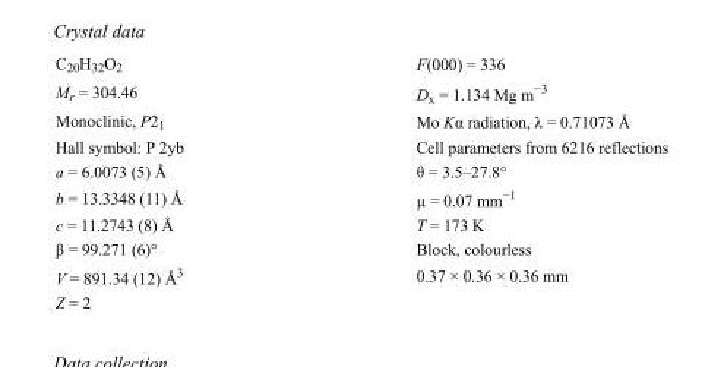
<table><tbody><tr><td>C<sub>20</sub>H<sub>32</sub>O<sub>2</sub></td><td>F(000) = 336</td></tr><tr><td>M<sub>r</sub> = 304.46</td><td>D<sub>x</sub> = 1.134 Mg m<sup>−3</sup></td></tr><tr><td>Monoclinic, P2<sub>1</sub></td><td>Mo Kα radiation, λ = 0.71073 Å</td></tr><tr><td>Hall symbol: P 2yb</td><td>Cell parameters from 6216 reflections</td></tr><tr><td>a = 6.0073 (5) Å</td><td>θ = 3.5–27.8°</td></tr><tr><td>b = 13.3348 (11) Å</td><td>µ = 0.07 mm<sup>−1</sup></td></tr><tr><td>c = 11.2743 (8) Å</td><td>T = 173 K</td></tr><tr><td>β = 99.271 (6)°</td><td>Block, colourless</td></tr><tr><td>V = 891.34 (12) Å<sup>3</sup></td><td>0.37 × 0.36 × 0.36 mm</td></tr><tr><td>Z = 2</td><td></td></tr></tbody></table>